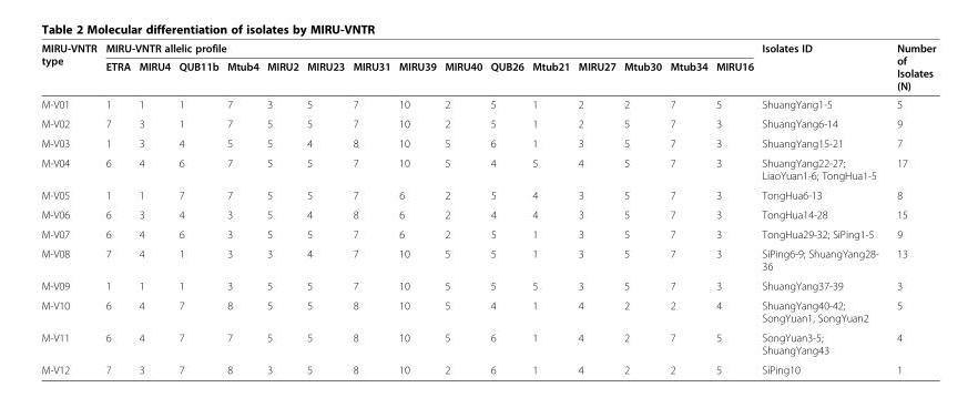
<table><thead><tr><td rowspan="2">MIRU-VNTR type</td><td colspan="15">MIRU-VNTR allelic profile</td><td rowspan="2">Isolates ID</td><td rowspan="2">Number of Isolates (N)</td></tr><tr><td>ETRA</td><td>MIRU4</td><td>QUB11b</td><td>Mtub4</td><td>MIRU2</td><td>MIRU23</td><td>MIRU31</td><td>MIRU39</td><td>MIRU40</td><td>QUB26</td><td>Mtub21</td><td>MIRU27</td><td>Mtub30</td><td>Mtub34</td><td>MIRU16</td></tr></thead><tbody><tr><td>M-V01</td><td>1</td><td>1</td><td>1</td><td>7</td><td>3</td><td>5</td><td>7</td><td>10</td><td>2</td><td>5</td><td>1</td><td>2</td><td>2</td><td>7</td><td>5</td><td>ShuangYang1-5</td><td>5</td></tr><tr><td>M-V02</td><td>7</td><td>3</td><td>1</td><td>7</td><td>5</td><td>5</td><td>7</td><td>10</td><td>2</td><td>5</td><td>1</td><td>2</td><td>5</td><td>7</td><td>3</td><td>ShuangYang6-14</td><td>9</td></tr><tr><td>M-V03</td><td>1</td><td>3</td><td>4</td><td>5</td><td>5</td><td>4</td><td>8</td><td>10</td><td>5</td><td>6</td><td>1</td><td>3</td><td>5</td><td>7</td><td>3</td><td>ShuangYang15-21</td><td>7</td></tr><tr><td>M-V04</td><td>6</td><td>4</td><td>6</td><td>7</td><td>5</td><td>5</td><td>7</td><td>10</td><td>5</td><td>4</td><td>5</td><td>4</td><td>5</td><td>7</td><td>3</td><td>ShuangYang22-27; LiaoYuan1-6; TongHua1-5</td><td>17</td></tr><tr><td>M-V05</td><td>1</td><td>1</td><td>7</td><td>7</td><td>5</td><td>5</td><td>7</td><td>6</td><td>2</td><td>5</td><td>4</td><td>3</td><td>5</td><td>7</td><td>3</td><td>TongHua6-13</td><td>8</td></tr><tr><td>M-V06</td><td>6</td><td>3</td><td>4</td><td>3</td><td>5</td><td>4</td><td>8</td><td>6</td><td>2</td><td>4</td><td>4</td><td>3</td><td>5</td><td>7</td><td>3</td><td>TongHua14-28</td><td>15</td></tr><tr><td>M-V07</td><td>6</td><td>4</td><td>6</td><td>3</td><td>5</td><td>5</td><td>7</td><td>6</td><td>2</td><td>5</td><td>1</td><td>3</td><td>5</td><td>7</td><td>3</td><td>TongHua29-32; SiPing1-5</td><td>9</td></tr><tr><td>M-V08</td><td>7</td><td>4</td><td>1</td><td>3</td><td>3</td><td>4</td><td>7</td><td>10</td><td>5</td><td>5</td><td>1</td><td>3</td><td>5</td><td>7</td><td>3</td><td>SiPing6-9; ShuangYang28- 36</td><td>13</td></tr><tr><td>M-V09</td><td>1</td><td>1</td><td>1</td><td>3</td><td>5</td><td>5</td><td>7</td><td>10</td><td>5</td><td>5</td><td>5</td><td>3</td><td>5</td><td>7</td><td>3</td><td>ShuangYang37-39</td><td>3</td></tr><tr><td>M-V10</td><td>6</td><td>4</td><td>7</td><td>8</td><td>5</td><td>5</td><td>8</td><td>10</td><td>5</td><td>4</td><td>1</td><td>4</td><td>2</td><td>2</td><td>4</td><td>ShuangYang40-42; SongYuan1, SongYuan2</td><td>5</td></tr><tr><td>M-V11</td><td>6</td><td>4</td><td>7</td><td>7</td><td>5</td><td>5</td><td>8</td><td>10</td><td>5</td><td>6</td><td>1</td><td>4</td><td>2</td><td>7</td><td>5</td><td>SongYuan3-5; ShuangYang43</td><td>4</td></tr><tr><td>M-V12</td><td>7</td><td>3</td><td>7</td><td>8</td><td>3</td><td>5</td><td>8</td><td>10</td><td>2</td><td>6</td><td>1</td><td>4</td><td>2</td><td>2</td><td>5</td><td>SiPing10</td><td>1</td></tr></tbody></table>